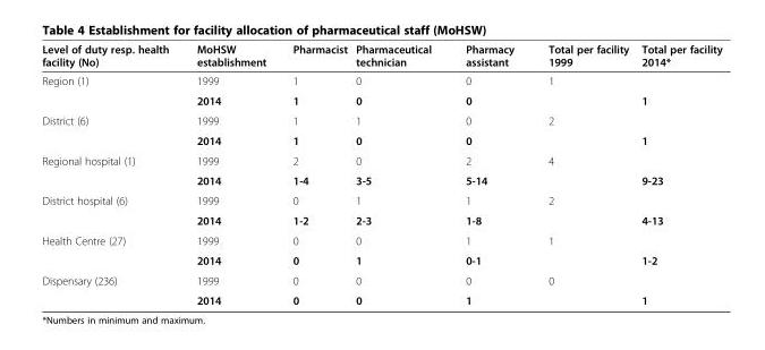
<table><thead><tr><td>Level of duty resp. health facility (No)</td><td>MoHSW establishment</td><td>Pharmacist</td><td>Pharmaceutical technician</td><td>Pharmacy assistant</td><td>Total per facility 1999</td><td>Total per facility 2014*</td></tr></thead><tbody><tr><td rowspan="2">Region (1)</td><td>1999</td><td>1</td><td>0</td><td>0</td><td>1</td><td></td></tr><tr><td>2014</td><td>1</td><td>0</td><td>0</td><td></td><td>1</td></tr><tr><td rowspan="2">District (6)</td><td>1999</td><td>1</td><td>1</td><td>0</td><td>2</td><td></td></tr><tr><td>2014</td><td>1</td><td>0</td><td>0</td><td></td><td>1</td></tr><tr><td rowspan="2">Regional hospital (1)</td><td>1999</td><td>2</td><td>0</td><td>2</td><td>4</td><td></td></tr><tr><td>2014</td><td>1-4</td><td>3-5</td><td>5-14</td><td></td><td>9-23</td></tr><tr><td rowspan="2">District hospital (6)</td><td>1999</td><td>0</td><td>1</td><td>1</td><td>2</td><td></td></tr><tr><td>2014</td><td>1-2</td><td>2-3</td><td>1-8</td><td></td><td>4-13</td></tr><tr><td rowspan="2">Health Centre (27)</td><td>1999</td><td>0</td><td>0</td><td>1</td><td>1</td><td></td></tr><tr><td>2014</td><td>0</td><td>1</td><td>0-1</td><td></td><td>1-2</td></tr><tr><td rowspan="2">Dispensary (236)</td><td>1999</td><td>0</td><td>0</td><td>0</td><td>0</td><td></td></tr><tr><td>2014</td><td>0</td><td>0</td><td>1</td><td></td><td>1</td></tr></tbody></table>